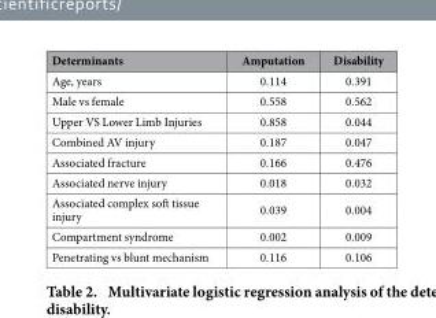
<table><thead><tr><td>Determinants</td><td>Amputation</td><td>Disability</td></tr></thead><tbody><tr><td>Age, years</td><td>0.114</td><td>0.391</td></tr><tr><td>Male vs female</td><td>0.558</td><td>0.562</td></tr><tr><td>Upper VS Lower Limb Injuries</td><td>0.858</td><td>0.044</td></tr><tr><td>Combined AV injury</td><td>0.187</td><td>0.047</td></tr><tr><td>Associated fracture</td><td>0.166</td><td>0.476</td></tr><tr><td>Associated nerve injury</td><td>0.018</td><td>0.032</td></tr><tr><td>Associated complex soft tissue injury</td><td>0.039</td><td>0.004</td></tr><tr><td>Compartment syndrome</td><td>0.002</td><td>0.009</td></tr><tr><td>Penetrating vs blunt mechanism</td><td>0.116</td><td>0.106</td></tr></tbody></table>